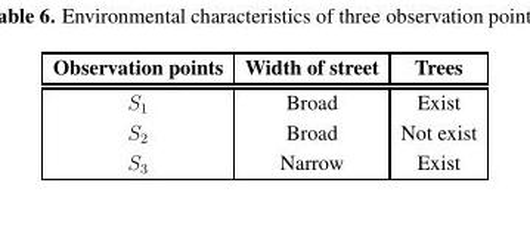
<table><thead><tr><td>Observation points</td><td>Width of street</td><td>Trees</td></tr></thead><tbody><tr><td>푆1</td><td>Broad</td><td>Exist</td></tr><tr><td>푆2</td><td>Broad</td><td>Not exist</td></tr><tr><td>푆3</td><td>Narrow</td><td>Exist</td></tr></tbody></table>